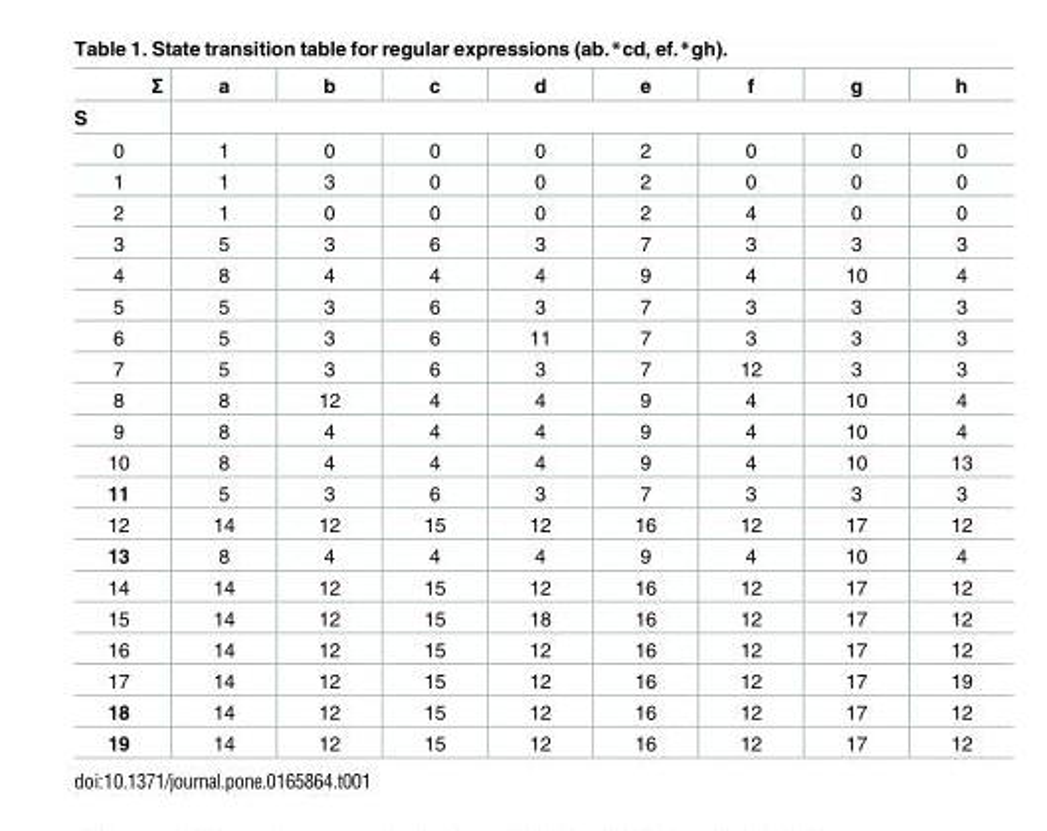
<table><thead><tr><td rowspan="2">Σ S</td><td rowspan="2">a</td><td rowspan="2">b</td><td rowspan="2">c</td><td rowspan="2">d</td><td rowspan="2">e</td><td rowspan="2">f</td><td rowspan="2">g</td><td rowspan="2">h</td></tr><tr></tr></thead><tbody><tr><td>0</td><td>1</td><td>0</td><td>0</td><td>0</td><td>2</td><td>0</td><td>0</td><td>0</td></tr><tr><td>1</td><td>1</td><td>3</td><td>0</td><td>0</td><td>2</td><td>0</td><td>0</td><td>0</td></tr><tr><td>2</td><td>1</td><td>0</td><td>0</td><td>0</td><td>2</td><td>4</td><td>0</td><td>0</td></tr><tr><td>3</td><td>5</td><td>3</td><td>6</td><td>3</td><td>7</td><td>3</td><td>3</td><td>3</td></tr><tr><td>4</td><td>8</td><td>4</td><td>4</td><td>4</td><td>9</td><td>4</td><td>10</td><td>4</td></tr><tr><td>5</td><td>5</td><td>3</td><td>6</td><td>3</td><td>7</td><td>3</td><td>3</td><td>3</td></tr><tr><td>6</td><td>5</td><td>3</td><td>6</td><td>11</td><td>7</td><td>3</td><td>3</td><td>3</td></tr><tr><td>7</td><td>5</td><td>3</td><td>6</td><td>3</td><td>7</td><td>12</td><td>3</td><td>3</td></tr><tr><td>8</td><td>8</td><td>12</td><td>4</td><td>4</td><td>9</td><td>4</td><td>10</td><td>4</td></tr><tr><td>9</td><td>8</td><td>4</td><td>4</td><td>4</td><td>9</td><td>4</td><td>10</td><td>4</td></tr><tr><td>10</td><td>8</td><td>4</td><td>4</td><td>4</td><td>9</td><td>4</td><td>10</td><td>13</td></tr><tr><td>11</td><td>5</td><td>3</td><td>6</td><td>3</td><td>7</td><td>3</td><td>3</td><td>3</td></tr><tr><td>12</td><td>14</td><td>12</td><td>15</td><td>12</td><td>16</td><td>12</td><td>17</td><td>12</td></tr><tr><td>13</td><td>8</td><td>4</td><td>4</td><td>4</td><td>9</td><td>4</td><td>10</td><td>4</td></tr><tr><td>14</td><td>14</td><td>12</td><td>15</td><td>12</td><td>16</td><td>12</td><td>17</td><td>12</td></tr><tr><td>15</td><td>14</td><td>12</td><td>15</td><td>18</td><td>16</td><td>12</td><td>17</td><td>12</td></tr><tr><td>16</td><td>14</td><td>12</td><td>15</td><td>12</td><td>16</td><td>12</td><td>17</td><td>12</td></tr><tr><td>17</td><td>14</td><td>12</td><td>15</td><td>12</td><td>16</td><td>12</td><td>17</td><td>19</td></tr><tr><td>18</td><td>14</td><td>12</td><td>15</td><td>12</td><td>16</td><td>12</td><td>17</td><td>12</td></tr><tr><td>19</td><td>14</td><td>12</td><td>15</td><td>12</td><td>16</td><td>12</td><td>17</td><td>12</td></tr></tbody></table>